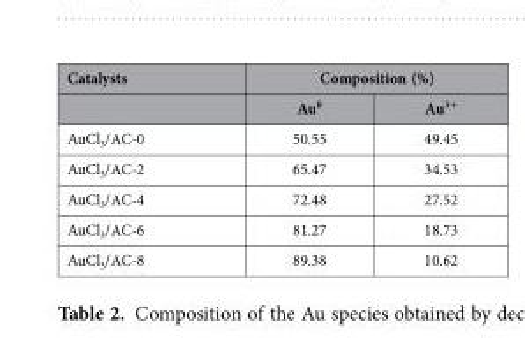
<table><thead><tr><td rowspan="2">Catalysts</td><td colspan="2">Composition (%)</td></tr><tr><td>Au<sup>0</sup></td><td>Au<sup>3+</sup></td></tr></thead><tbody><tr><td>AuCl<sub>3</sub>/AC-0</td><td>50.55</td><td>49.45</td></tr><tr><td>AuCl<sub>3</sub>/AC-2</td><td>65.47</td><td>34.53</td></tr><tr><td>AuCl<sub>3</sub>/AC-4</td><td>72.48</td><td>27.52</td></tr><tr><td>AuCl<sub>3</sub>/AC-6</td><td>81.27</td><td>18.73</td></tr><tr><td>AuCl<sub>3</sub>/AC-8</td><td>89.38</td><td>10.62</td></tr></tbody></table>